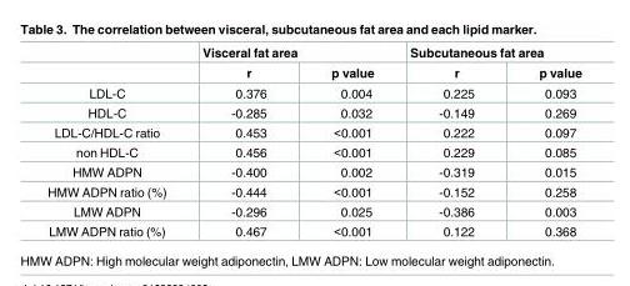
<table><thead><tr><td rowspan="2"></td><td colspan="2">Visceral fat area</td><td colspan="2">Subcutaneous fat area</td></tr><tr><td>r</td><td>p value</td><td>r</td><td>p value</td></tr></thead><tbody><tr><td>LDL-C</td><td>0.376</td><td>0.004</td><td>0.225</td><td>0.093</td></tr><tr><td>HDL-C</td><td>-0.285</td><td>0.032</td><td>-0.149</td><td>0.269</td></tr><tr><td>LDL-C/HDL-C ratio</td><td>0.453</td><td>&lt;0.001</td><td>0.222</td><td>0.097</td></tr><tr><td>non HDL-C</td><td>0.456</td><td>&lt;0.001</td><td>0.229</td><td>0.085</td></tr><tr><td>HMW ADPN</td><td>-0.400</td><td>0.002</td><td>-0.319</td><td>0.015</td></tr><tr><td>HMW ADPN ratio (%)</td><td>-0.444</td><td>&lt;0.001</td><td>-0.152</td><td>0.258</td></tr><tr><td>LMW ADPN</td><td>-0.296</td><td>0.025</td><td>-0.386</td><td>0.003</td></tr><tr><td>LMW ADPN ratio (%)</td><td>0.467</td><td>&lt;0.001</td><td>0.122</td><td>0.368</td></tr></tbody></table>